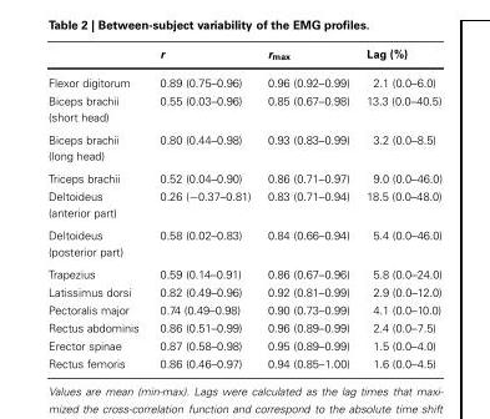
<table><thead><tr><td></td><td>r</td><td>r<sub>max</sub></td><td>Lag (%)</td></tr></thead><tbody><tr><td>Flexor digitorum</td><td>0.89 (0.75–0.96)</td><td>0.96 (0.92–0.99)</td><td>2.1 (0.0–6.0)</td></tr><tr><td>Biceps brachii (short head)</td><td>0.55 (0.03–0.96)</td><td>0.85 (0.67–0.98)</td><td>13.3 (0.0–40.5)</td></tr><tr><td>Biceps brachii (long head)</td><td>0.80 (0.44–0.98)</td><td>0.93 (0.83–0.99)</td><td>3.2 (0.0–8.5)</td></tr><tr><td>Triceps brachii</td><td>0.52 (0.04–0.90)</td><td>0.86 (0.71–0.97)</td><td>9.0 (0.0–46.0)</td></tr><tr><td>Deltoideus (anterior part)</td><td>0.26 (−0.37–0.81)</td><td>0.83 (0.71–0.94)</td><td>18.5 (0.0–48.0)</td></tr><tr><td>Deltoideus (posterior part)</td><td>0.58 (0.02–0.83)</td><td>0.84 (0.66–0.94)</td><td>5.4 (0.0–46.0)</td></tr><tr><td>Trapezius</td><td>0.59 (0.14–0.91)</td><td>0.86 (0.67–0.96)</td><td>5.8 (0.0–24.0)</td></tr><tr><td>Latissimus dorsi</td><td>0.82 (0.49–0.96)</td><td>0.92 (0.81–0.99)</td><td>2.9 (0.0–12.0)</td></tr><tr><td>Pectoralis major</td><td>0.74 (0.49–0.98)</td><td>0.90 (0.73–0.99)</td><td>4.1 (0.0–10.0)</td></tr><tr><td>Rectus abdominis</td><td>0.86 (0.51–0.99)</td><td>0.96 (0.89–0.99)</td><td>2.4 (0.0–7.5)</td></tr><tr><td>Erector spinae</td><td>0.87 (0.58–0.98)</td><td>0.95 (0.89–0.99)</td><td>1.5 (0.0–4.0)</td></tr><tr><td>Rectus femoris</td><td>0.86 (0.46–0.97)</td><td>0.94 (0.85–1.00)</td><td>1.6 (0.0–4.5)</td></tr></tbody></table>